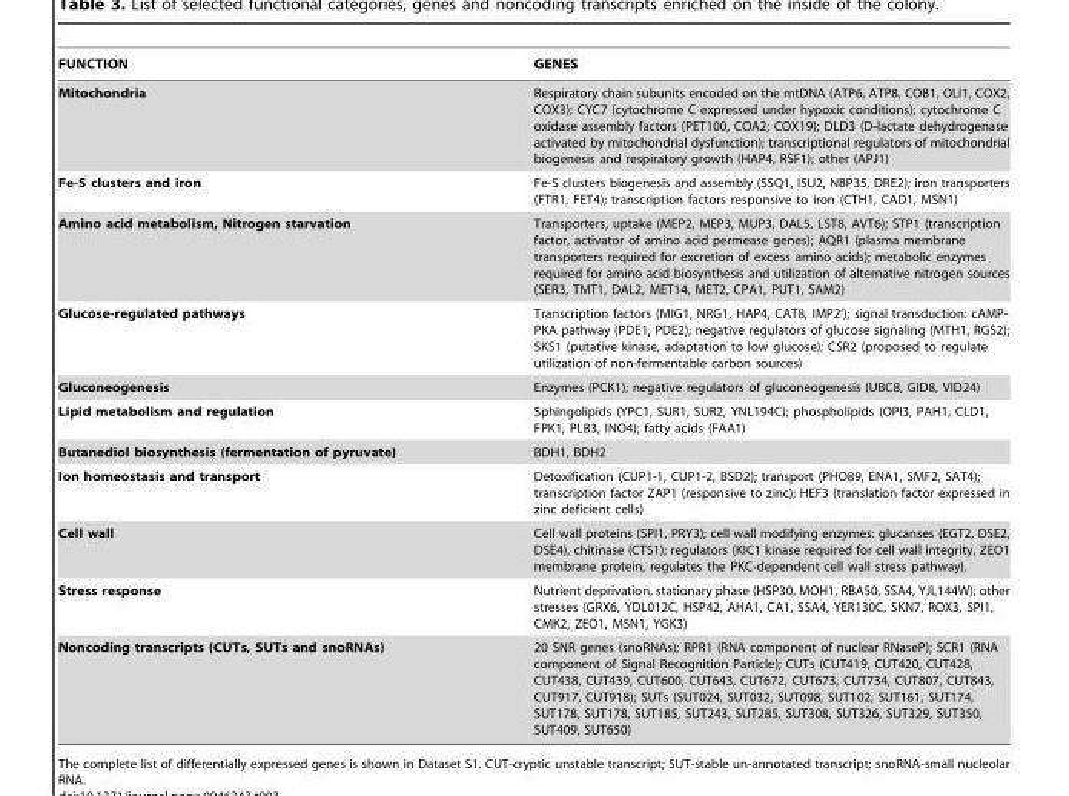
<table><thead><tr><td>FUNCTION</td><td>GENES</td></tr></thead><tbody><tr><td>Mitochondria</td><td>Respiratory chain subunits encoded on the mtDNA (ATP6, ATP8, COB1, OLI1, COX2, COX3); CYC7 (cytochrome C expressed under hypoxic conditions); cytochrome C oxidase assembly factors (PET100, COA2; COX19); DLD3 (D-lactate dehydrogenase activated by mitochondrial dysfunction); transcriptional regulators of mitochondrial biogenesis and respiratory growth (HAP4, RSF1); other (APJ1)</td></tr><tr><td>Fe-S clusters and iron</td><td>Fe-S clusters biogenesis and assembly (SSQ1, ISU2, NBP35, DRE2); iron transporters (FTR1, FET4); transcription factors responsive to iron (CTH1, CAD1, MSN1)</td></tr><tr><td>Amino acid metabolism, Nitrogen starvation</td><td>Transporters, uptake (MEP2, MEP3, MUP3, DAL5, LST8, AVT6); STP1 (transcription factor, activator of amino acid permease genes); AQR1 (plasma membrane transporters required for excretion of excess amino acids); metabolic enzymes required for amino acid biosynthesis and utilization of alternative nitrogen sources (SER3, TMT1, DAL2, MET14, MET2, CPA1, PUT1, SAM2)</td></tr><tr><td>Glucose-regulated pathways</td><td>Transcription factors (MIG1, NRG1, HAP4, CAT8, IMP2’); signal transduction: cAMP- PKA pathway (PDE1, PDE2); negative regulators of glucose signaling (MTH1, RGS2); SKS1 (putative kinase, adaptation to low glucose); CSR2 (proposed to regulate utilization of non-fermentable carbon sources)</td></tr><tr><td>Gluconeogenesis</td><td>Enzymes (PCK1); negative regulators of gluconeogenesis (UBC8, GID8, VID24)</td></tr><tr><td>Lipid metabolism and regulation</td><td>Sphingolipids (YPC1, SUR1, SUR2, YNL194C); phospholipids (OPI3, PAH1, CLD1, FPK1, PLB3, INO4); fatty acids (FAA1)</td></tr><tr><td>Butanediol biosynthesis (fermentation of pyruvate)</td><td>BDH1, BDH2</td></tr><tr><td>Ion homeostasis and transport</td><td>Detoxification (CUP1-1, CUP1-2, BSD2); transport (PHO89, ENA1, SMF2, SAT4); transcription factor ZAP1 (responsive to zinc); HEF3 (translation factor expressed in zinc deficient cells)</td></tr><tr><td>Cell wall</td><td>Cell wall proteins (SPI1, PRY3); cell wall modifying enzymes: glucanses (EGT2, DSE2, DSE4), chitinase (CTS1); regulators (KIC1 kinase required for cell wall integrity, ZEO1 membrane protein, regulates the PKC-dependent cell wall stress pathway).</td></tr><tr><td>Stress response</td><td>Nutrient deprivation, stationary phase (HSP30, MOH1, RBA50, SSA4, YJL144W); other stresses (GRX6, YDL012C, HSP42, AHA1, CA1, SSA4, YER130C, SKN7, ROX3, SPI1, CMK2, ZEO1, MSN1, YGK3)</td></tr><tr><td>Noncoding transcripts (CUTs, SUTs and snoRNAs)</td><td>20 SNR genes (snoRNAs); RPR1 (RNA component of nuclear RNaseP); SCR1 (RNA component of Signal Recognition Particle); CUTs (CUT419, CUT420, CUT428, CUT438, CUT439, CUT600, CUT643, CUT672, CUT673, CUT734, CUT807, CUT843, CUT917, CUT918); SUTs (SUT024, SUT032, SUT098, SUT102, SUT161, SUT174, SUT178, SUT178, SUT185, SUT243, SUT285, SUT308, SUT326, SUT329, SUT350, SUT409, SUT650)</td></tr></tbody></table>